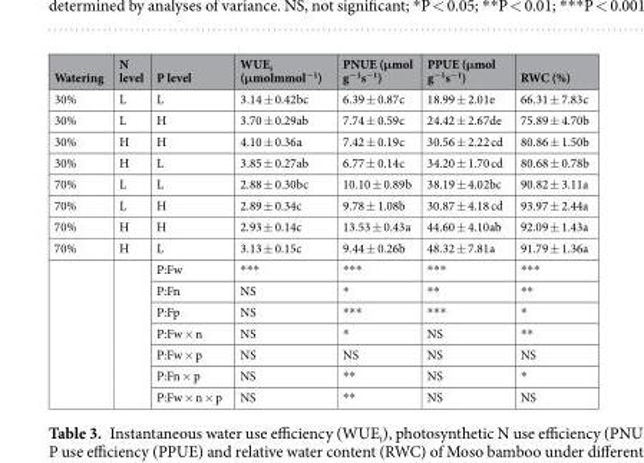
<table><thead><tr><td>Watering</td><td>N level</td><td>P level</td><td>WUE<sub>i</sub> (μmolmmol<sup>−1</sup>)</td><td>PNUE (μmol g<sup>−1</sup>s<sup>−1</sup>)</td><td>PPUE (μmol g<sup>−1</sup>s<sup>−1</sup>)</td><td>RWC (%)</td></tr></thead><tbody><tr><td>30%</td><td>L</td><td>L</td><td>3.14 ± 0.42bc</td><td>6.39 ± 0.87c</td><td>18.99 ± 2.01e</td><td>66.31 ± 7.83c</td></tr><tr><td>30%</td><td>L</td><td>H</td><td>3.70 ± 0.29ab</td><td>7.74 ± 0.59c</td><td>24.42 ± 2.67de</td><td>75.89 ± 4.70b</td></tr><tr><td>30%</td><td>H</td><td>H</td><td>4.10 ± 0.36a</td><td>7.42 ± 0.19c</td><td>30.56 ± 2.22 cd</td><td>80.86 ± 1.50b</td></tr><tr><td>30%</td><td>H</td><td>L</td><td>3.85 ± 0.27ab</td><td>6.77 ± 0.14c</td><td>34.20 ± 1.70 cd</td><td>80.68 ± 0.78b</td></tr><tr><td>70%</td><td>L</td><td>L</td><td>2.88 ± 0.30bc</td><td>10.10 ± 0.89b</td><td>38.19 ± 4.02bc</td><td>90.82 ± 3.11a</td></tr><tr><td>70%</td><td>L</td><td>H</td><td>2.89 ± 0.34c</td><td>9.78 ± 1.08b</td><td>30.87 ± 4.18 cd</td><td>93.97 ± 2.44a</td></tr><tr><td>70%</td><td>H</td><td>H</td><td>2.93 ± 0.14c</td><td>13.53 ± 0.43a</td><td>44.60 ± 4.10ab</td><td>92.09 ± 1.43a</td></tr><tr><td rowspan="8">70%</td><td>H</td><td>L</td><td>3.13 ± 0.15c</td><td>9.44 ± 0.26b</td><td>48.32 ± 7.81a</td><td>91.79 ± 1.36a</td></tr><tr><td rowspan="7"></td><td>P:Fw</td><td>***</td><td>***</td><td>***</td><td>***</td></tr><tr><td>P:Fn</td><td>NS</td><td>*</td><td>**</td><td>**</td></tr><tr><td>P:Fp</td><td>NS</td><td>***</td><td>***</td><td>*</td></tr><tr><td>P:Fw × n</td><td>NS</td><td>*</td><td>NS</td><td>**</td></tr><tr><td>P:Fw × p</td><td>NS</td><td>NS</td><td>NS</td><td>NS</td></tr><tr><td>P:Fn × p</td><td>NS</td><td>**</td><td>NS</td><td>*</td></tr><tr><td>P:Fw × n × p</td><td>NS</td><td>**</td><td>NS</td><td>NS</td></tr></tbody></table>